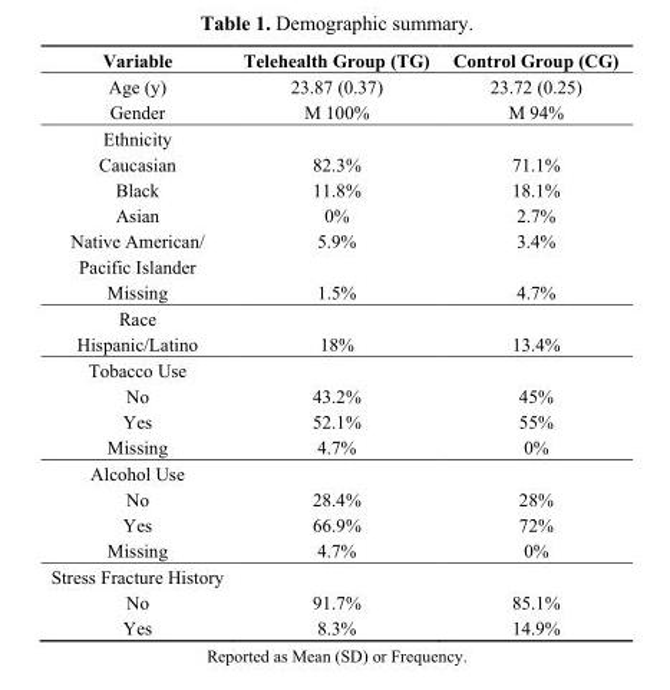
<table><thead><tr><td>Variable</td><td>Telehealth Group (TG)</td><td>Control Group (CG)</td></tr></thead><tbody><tr><td>Age (y)</td><td>23.87 (0.37)</td><td>23.72 (0.25)</td></tr><tr><td>Gender</td><td>M 100%</td><td>M 94%</td></tr><tr><td colspan="3">Ethnicity</td></tr><tr><td>Caucasian</td><td>82.3%</td><td>71.1%</td></tr><tr><td>Black</td><td>11.8%</td><td>18.1%</td></tr><tr><td>Asian</td><td>0%</td><td>2.7%</td></tr><tr><td>Native American/</td><td>5.9%</td><td>3.4%</td></tr><tr><td colspan="3">Pacific Islander</td></tr><tr><td>Missing</td><td>1.5%</td><td>4.7%</td></tr><tr><td colspan="3">Race</td></tr><tr><td>Hispanic/Latino</td><td>18%</td><td>13.4%</td></tr><tr><td colspan="3">Tobacco Use</td></tr><tr><td>No</td><td>43.2%</td><td>45%</td></tr><tr><td>Yes</td><td>52.1%</td><td>55%</td></tr><tr><td>Missing</td><td>4.7%</td><td>0%</td></tr><tr><td colspan="3">Alcohol Use</td></tr><tr><td>No</td><td>28.4%</td><td>28%</td></tr><tr><td>Yes</td><td>66.9%</td><td>72%</td></tr><tr><td>Missing</td><td>4.7%</td><td>0%</td></tr><tr><td colspan="3">Stress Fracture History</td></tr><tr><td>No</td><td>91.7%</td><td>85.1%</td></tr><tr><td>Yes</td><td>8.3%</td><td>14.9%</td></tr></tbody></table>